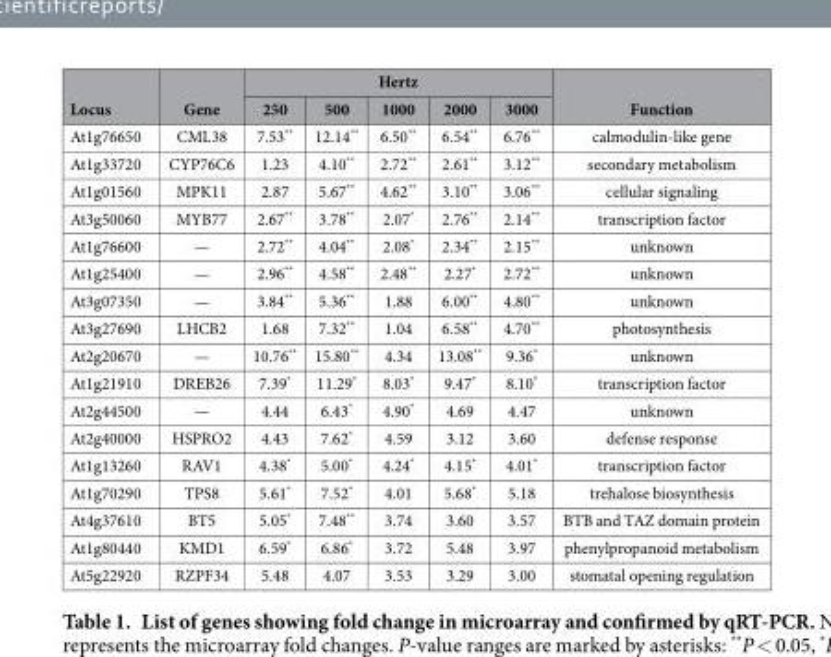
<table><thead><tr><td rowspan="2">Locus</td><td rowspan="2">Gene</td><td colspan="5">Hertz</td><td rowspan="2">Function</td></tr><tr><td>250</td><td>500</td><td>1000</td><td>2000</td><td>3000</td></tr></thead><tbody><tr><td>At1g76650</td><td>CML38</td><td>7.53**</td><td>12.14**</td><td>6.50**</td><td>6.54**</td><td>6.76**</td><td>calmodulin-like gene</td></tr><tr><td>At1g33720</td><td>CYP76C6</td><td>1.23</td><td>4.10**</td><td>2.72**</td><td>2.61**</td><td>3.12**</td><td>secondary metabolism</td></tr><tr><td>At1g01560</td><td>MPK11</td><td>2.87</td><td>5.67**</td><td>4.62**</td><td>3.10**</td><td>3.06**</td><td>cellular signaling</td></tr><tr><td>At3g50060</td><td>MYB77</td><td>2.67**</td><td>3.78**</td><td>2.07*</td><td>2.76**</td><td>2.14**</td><td>transcription factor</td></tr><tr><td>At1g76600</td><td>—</td><td>2.72**</td><td>4.04**</td><td>2.08*</td><td>2.34**</td><td>2.15**</td><td>unknown</td></tr><tr><td>At1g25400</td><td>—</td><td>2.96**</td><td>4.58**</td><td>2.48**</td><td>2.27*</td><td>2.72**</td><td>unknown</td></tr><tr><td>At3g07350</td><td>—</td><td>3.84**</td><td>5.36**</td><td>1.88</td><td>6.00**</td><td>4.80**</td><td>unknown</td></tr><tr><td>At3g27690</td><td>LHCB2</td><td>1.68</td><td>7.32**</td><td>1.04</td><td>6.58**</td><td>4.70**</td><td>photosynthesis</td></tr><tr><td>At2g20670</td><td>—</td><td>10.76**</td><td>15.80**</td><td>4.34</td><td>13.08**</td><td>9.36*</td><td>unknown</td></tr><tr><td>At1g21910</td><td>DREB26</td><td>7.39*</td><td>11.29*</td><td>8.03*</td><td>9.47*</td><td>8.10*</td><td>transcription factor</td></tr><tr><td>At2g44500</td><td>—</td><td>4.44</td><td>6.43*</td><td>4.90*</td><td>4.69</td><td>4.47</td><td>unknown</td></tr><tr><td>At2g40000</td><td>HSPRO2</td><td>4.43</td><td>7.62*</td><td>4.59</td><td>3.12</td><td>3.60</td><td>defense response</td></tr><tr><td>At1g13260</td><td>RAV1</td><td>4.38*</td><td>5.00*</td><td>4.24*</td><td>4.15*</td><td>4.01*</td><td>transcription factor</td></tr><tr><td>At1g70290</td><td>TPS8</td><td>5.61*</td><td>7.52*</td><td>4.01</td><td>5.68*</td><td>5.18</td><td>trehalose biosynthesis</td></tr><tr><td>At4g37610</td><td>BT5</td><td>5.05*</td><td>7.48**</td><td>3.74</td><td>3.60</td><td>3.57</td><td>BTB and TAZ domain protein</td></tr><tr><td>At1g80440</td><td>KMD1</td><td>6.59*</td><td>6.86*</td><td>3.72</td><td>5.48</td><td>3.97</td><td>phenylpropanoid metabolism</td></tr><tr><td>At5g22920</td><td>RZPF34</td><td>5.48</td><td>4.07</td><td>3.53</td><td>3.29</td><td>3.00</td><td>stomatal opening regulation</td></tr></tbody></table>